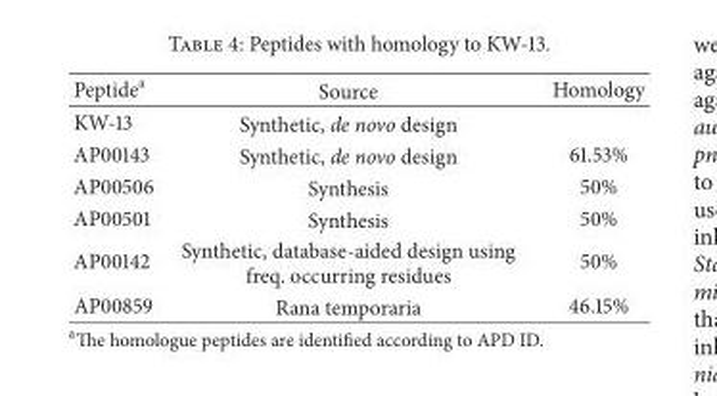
<table><thead><tr><td>Peptide<sup>a</sup></td><td>Source</td><td>Homology</td></tr></thead><tbody><tr><td>KW-13</td><td>Synthetic, de novo design</td><td></td></tr><tr><td>AP00143</td><td>Synthetic, de novo design</td><td>61.53%</td></tr><tr><td>AP00506</td><td>Synthesis</td><td>50%</td></tr><tr><td>AP00501</td><td>Synthesis</td><td>50%</td></tr><tr><td>AP00142</td><td>Synthetic, database-aided design using freq. occurring residues</td><td>50%</td></tr><tr><td>AP00859</td><td>Rana temporaria</td><td>46.15%</td></tr></tbody></table>